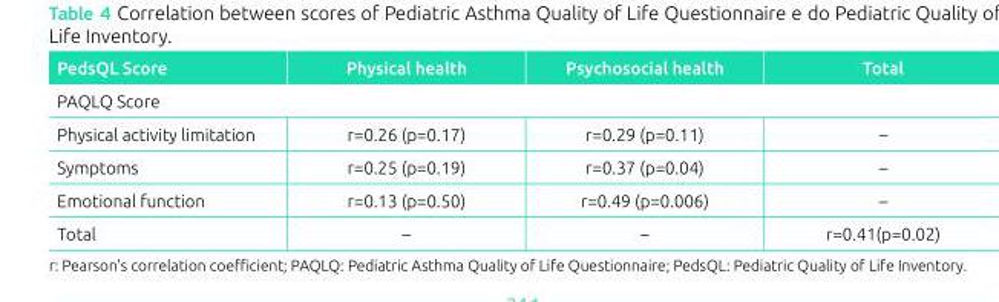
<table><thead><tr><td>PedsQL Score</td><td>Physical health</td><td>Psychosocial health</td><td>Total</td></tr></thead><tbody><tr><td colspan="4">PAQLQ Score</td></tr><tr><td>Physical activity limitation</td><td>r=0.26 (p=0.17)</td><td>r=0.29 (p=0.11)</td><td>–</td></tr><tr><td>Symptoms</td><td>r=0.25 (p=0.19)</td><td>r=0.37 (p=0.04)</td><td>–</td></tr><tr><td>Emotional function</td><td>r=0.13 (p=0.50)</td><td>r=0.49 (p=0.006)</td><td>–</td></tr><tr><td>Total</td><td>–</td><td>–</td><td>r=0.41(p=0.02)</td></tr></tbody></table>